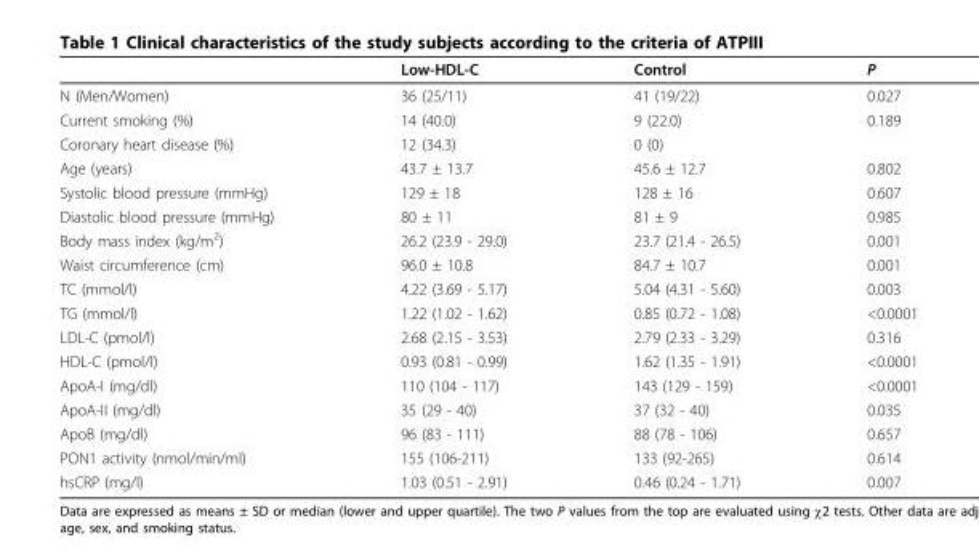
<table><thead><tr><td></td><td>Low-HDL-C</td><td>Control</td><td>P</td></tr></thead><tbody><tr><td>N (Men/Women)</td><td>36 (25/11)</td><td>41 (19/22)</td><td>0.027</td></tr><tr><td>Current smoking (%)</td><td>14 (40.0)</td><td>9 (22.0)</td><td>0.189</td></tr><tr><td>Coronary heart disease (%)</td><td>12 (34.3)</td><td>0 (0)</td><td></td></tr><tr><td>Age (years)</td><td>43.7 ± 13.7</td><td>45.6 ± 12.7</td><td>0.802</td></tr><tr><td>Systolic blood pressure (mmHg)</td><td>129 ± 18</td><td>128 ± 16</td><td>0.607</td></tr><tr><td>Diastolic blood pressure (mmHg)</td><td>80 ± 11</td><td>81 ± 9</td><td>0.985</td></tr><tr><td>Body mass index (kg/m<sup>2</sup>)</td><td>26.2 (23.9 - 29.0)</td><td>23.7 (21.4 - 26.5)</td><td>0.001</td></tr><tr><td>Waist circumference (cm)</td><td>96.0 ± 10.8</td><td>84.7 ± 10.7</td><td>0.001</td></tr><tr><td>TC (mmol/l)</td><td>4.22 (3.69 - 5.17)</td><td>5.04 (4.31 - 5.60)</td><td>0.003</td></tr><tr><td>TG (mmol/l)</td><td>1.22 (1.02 - 1.62)</td><td>0.85 (0.72 - 1.08)</td><td>&lt;0.0001</td></tr><tr><td>LDL-C (pmol/l)</td><td>2.68 (2.15 - 3.53)</td><td>2.79 (2.33 - 3.29)</td><td>0.316</td></tr><tr><td>HDL-C (pmol/l)</td><td>0.93 (0.81 - 0.99)</td><td>1.62 (1.35 - 1.91)</td><td>&lt;0.0001</td></tr><tr><td>ApoA-I (mg/dl)</td><td>110 (104 - 117)</td><td>143 (129 - 159)</td><td>&lt;0.0001</td></tr><tr><td>ApoA-II (mg/dl)</td><td>35 (29 - 40)</td><td>37 (32 - 40)</td><td>0.035</td></tr><tr><td>ApoB (mg/dl)</td><td>96 (83 - 111)</td><td>88 (78 - 106)</td><td>0.657</td></tr><tr><td>PON1 activity (nmol/min/ml)</td><td>155 (106-211)</td><td>133 (92-265)</td><td>0.614</td></tr><tr><td>hsCRP (mg/l)</td><td>1.03 (0.51 - 2.91)</td><td>0.46 (0.24 - 1.71)</td><td>0.007</td></tr></tbody></table>